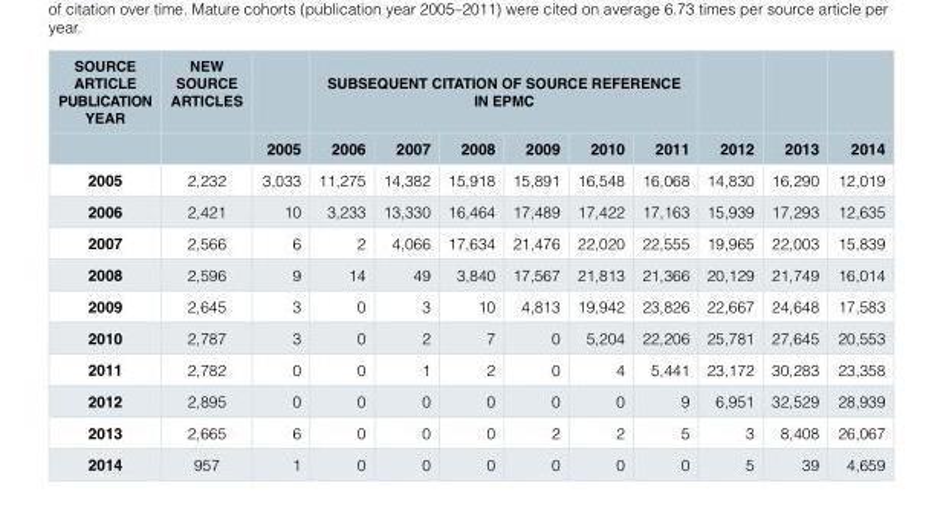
<table><thead><tr><td rowspan="2">SOURCE ARTICLE PUBLICATION YEAR</td><td rowspan="2">NEW SOURCE ARTICLES</td><td rowspan="2">2005</td><td colspan="6">SUBSEQUENT CITATION OF SOURCE REFERENCE IN EPMC</td><td rowspan="2">2012</td><td rowspan="2">2013</td><td rowspan="2">2014</td></tr><tr><td>2006</td><td>2007</td><td>2008</td><td>2009</td><td>2010</td><td>2011</td></tr></thead><tbody><tr><td>2005</td><td>2,232</td><td>3,033</td><td>11,275</td><td>14,382</td><td>15,918</td><td>15,891</td><td>16,548</td><td>16,068</td><td>14,830</td><td>16,290</td><td>12,019</td></tr><tr><td>2006</td><td>2,421</td><td>10</td><td>3,233</td><td>13,330</td><td>16,464</td><td>17,489</td><td>17,422</td><td>17,163</td><td>15,939</td><td>17,293</td><td>12,635</td></tr><tr><td>2007</td><td>2,566</td><td>6</td><td>2</td><td>4,066</td><td>17,634</td><td>21,476</td><td>22,020</td><td>22,555</td><td>19,965</td><td>22,003</td><td>15,839</td></tr><tr><td>2008</td><td>2,596</td><td>9</td><td>14</td><td>49</td><td>3,840</td><td>17,567</td><td>21,813</td><td>21,366</td><td>20,129</td><td>21,749</td><td>16,014</td></tr><tr><td>2009</td><td>2,645</td><td>3</td><td>0</td><td>3</td><td>10</td><td>4,813</td><td>19,942</td><td>23,826</td><td>22,667</td><td>24,648</td><td>17,583</td></tr><tr><td>2010</td><td>2,787</td><td>3</td><td>0</td><td>2</td><td>7</td><td>0</td><td>5,204</td><td>22,206</td><td>25,781</td><td>27,645</td><td>20,553</td></tr><tr><td>2011</td><td>2,782</td><td>0</td><td>0</td><td>1</td><td>2</td><td>0</td><td>4</td><td>5,441</td><td>23,172</td><td>30,283</td><td>23,358</td></tr><tr><td>2012</td><td>2,895</td><td>0</td><td>0</td><td>0</td><td>0</td><td>0</td><td>0</td><td>9</td><td>6,951</td><td>32,529</td><td>28,939</td></tr><tr><td>2013</td><td>2,665</td><td>6</td><td>0</td><td>0</td><td>0</td><td>2</td><td>2</td><td>5</td><td>3</td><td>8,408</td><td>26,067</td></tr><tr><td>2014</td><td>957</td><td>1</td><td>0</td><td>0</td><td>0</td><td>0</td><td>0</td><td>0</td><td>5</td><td>39</td><td>4,659</td></tr></tbody></table>